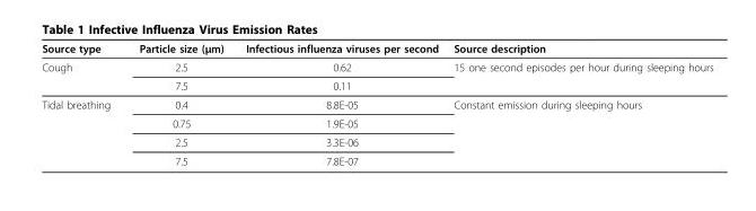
<table><thead><tr><td>Source type</td><td>Particle size (μm)</td><td>Infectious influenza viruses per second</td><td>Source description</td></tr></thead><tbody><tr><td rowspan="2">Cough</td><td>2.5</td><td>0.62</td><td>15 one second episodes per hour during sleeping hours</td></tr><tr><td>7.5</td><td>0.11</td><td></td></tr><tr><td rowspan="4">Tidal breathing</td><td>0.4</td><td>8.8E-05</td><td>Constant emission during sleeping hours</td></tr><tr><td>0.75</td><td>1.9E-05</td><td></td></tr><tr><td>2.5</td><td>3.3E-06</td><td></td></tr><tr><td>7.5</td><td>7.8E-07</td><td></td></tr></tbody></table>